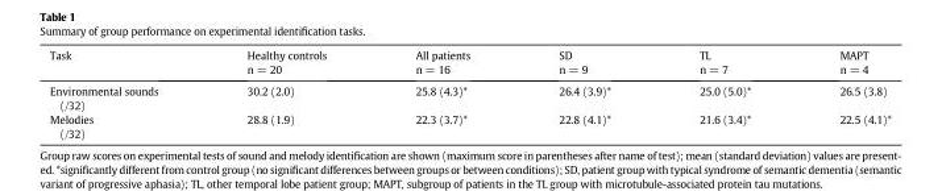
<table><thead><tr><td>Task</td><td>Healthy controls n = 20</td><td>All patients n = 16</td><td>SD n = 9</td><td>TL n = 7</td><td>MAPT n = 4</td></tr></thead><tbody><tr><td>Environmental sounds (/32)</td><td>30.2 (2.0)</td><td>25.8 (4.3)*</td><td>26.4 (3.9)*</td><td>25.0 (5.0)*</td><td>26.5 (3.8)</td></tr><tr><td>Melodies (/32)</td><td>28.8 (1.9)</td><td>22.3 (3.7)*</td><td>22.8 (4.1)*</td><td>21.6 (3.4)*</td><td>22.5 (4.1)*</td></tr></tbody></table>